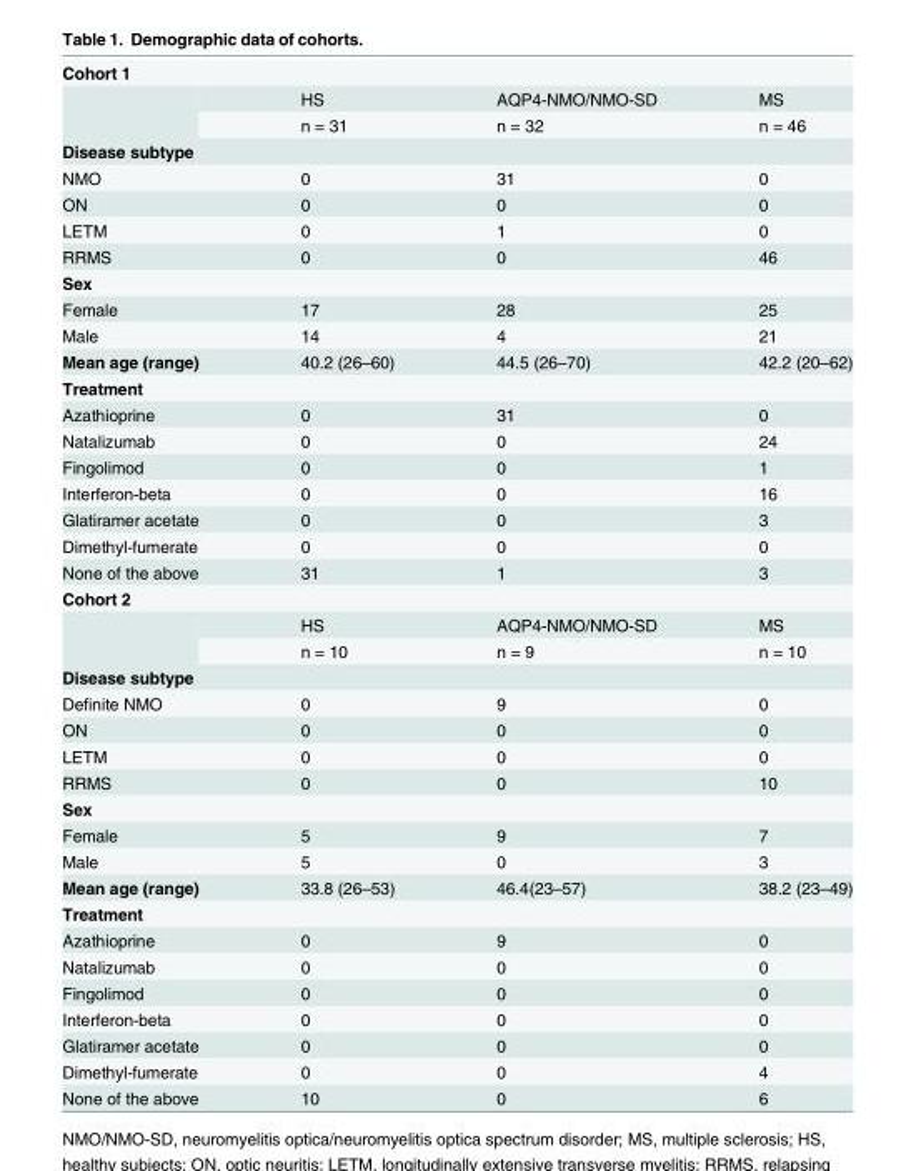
<table><tbody><tr><td colspan="4">Cohort 1</td></tr><tr><td rowspan="2"></td><td>HS</td><td>AQP4-NMO/NMO-SD</td><td>MS</td></tr><tr><td>n = 31</td><td>n = 32</td><td>n = 46</td></tr><tr><td colspan="4">Disease subtype</td></tr><tr><td>NMO</td><td>0</td><td>31</td><td>0</td></tr><tr><td>ON</td><td>0</td><td>0</td><td>0</td></tr><tr><td>LETM</td><td>0</td><td>1</td><td>0</td></tr><tr><td>RRMS</td><td>0</td><td>0</td><td>46</td></tr><tr><td colspan="4">Sex</td></tr><tr><td>Female</td><td>17</td><td>28</td><td>25</td></tr><tr><td>Male</td><td>14</td><td>4</td><td>21</td></tr><tr><td>Mean age (range)</td><td>40.2 (26–60)</td><td>44.5 (26–70)</td><td>42.2 (20–62)</td></tr><tr><td colspan="4">Treatment</td></tr><tr><td>Azathioprine</td><td>0</td><td>31</td><td>0</td></tr><tr><td>Natalizumab</td><td>0</td><td>0</td><td>24</td></tr><tr><td>Fingolimod</td><td>0</td><td>0</td><td>1</td></tr><tr><td>Interferon-beta</td><td>0</td><td>0</td><td>16</td></tr><tr><td>Glatiramer acetate</td><td>0</td><td>0</td><td>3</td></tr><tr><td>Dimethyl-fumerate</td><td>0</td><td>0</td><td>0</td></tr><tr><td>None of the above</td><td>31</td><td>1</td><td>3</td></tr><tr><td colspan="4">Cohort 2</td></tr><tr><td rowspan="2"></td><td>HS</td><td>AQP4-NMO/NMO-SD</td><td>MS</td></tr><tr><td>n = 10</td><td>n = 9</td><td>n = 10</td></tr><tr><td colspan="4">Disease subtype</td></tr><tr><td>Definite NMO</td><td>0</td><td>9</td><td>0</td></tr><tr><td>ON</td><td>0</td><td>0</td><td>0</td></tr><tr><td>LETM</td><td>0</td><td>0</td><td>0</td></tr><tr><td>RRMS</td><td>0</td><td>0</td><td>10</td></tr><tr><td colspan="4">Sex</td></tr><tr><td>Female</td><td>5</td><td>9</td><td>7</td></tr><tr><td>Male</td><td>5</td><td>0</td><td>3</td></tr><tr><td>Mean age (range)</td><td>33.8 (26–53)</td><td>46.4(23–57)</td><td>38.2 (23–49)</td></tr><tr><td colspan="4">Treatment</td></tr><tr><td>Azathioprine</td><td>0</td><td>9</td><td>0</td></tr><tr><td>Natalizumab</td><td>0</td><td>0</td><td>0</td></tr><tr><td>Fingolimod</td><td>0</td><td>0</td><td>0</td></tr><tr><td>Interferon-beta</td><td>0</td><td>0</td><td>0</td></tr><tr><td>Glatiramer acetate</td><td>0</td><td>0</td><td>0</td></tr><tr><td>Dimethyl-fumerate</td><td>0</td><td>0</td><td>4</td></tr><tr><td>None of the above</td><td>10</td><td>0</td><td>6</td></tr></tbody></table>